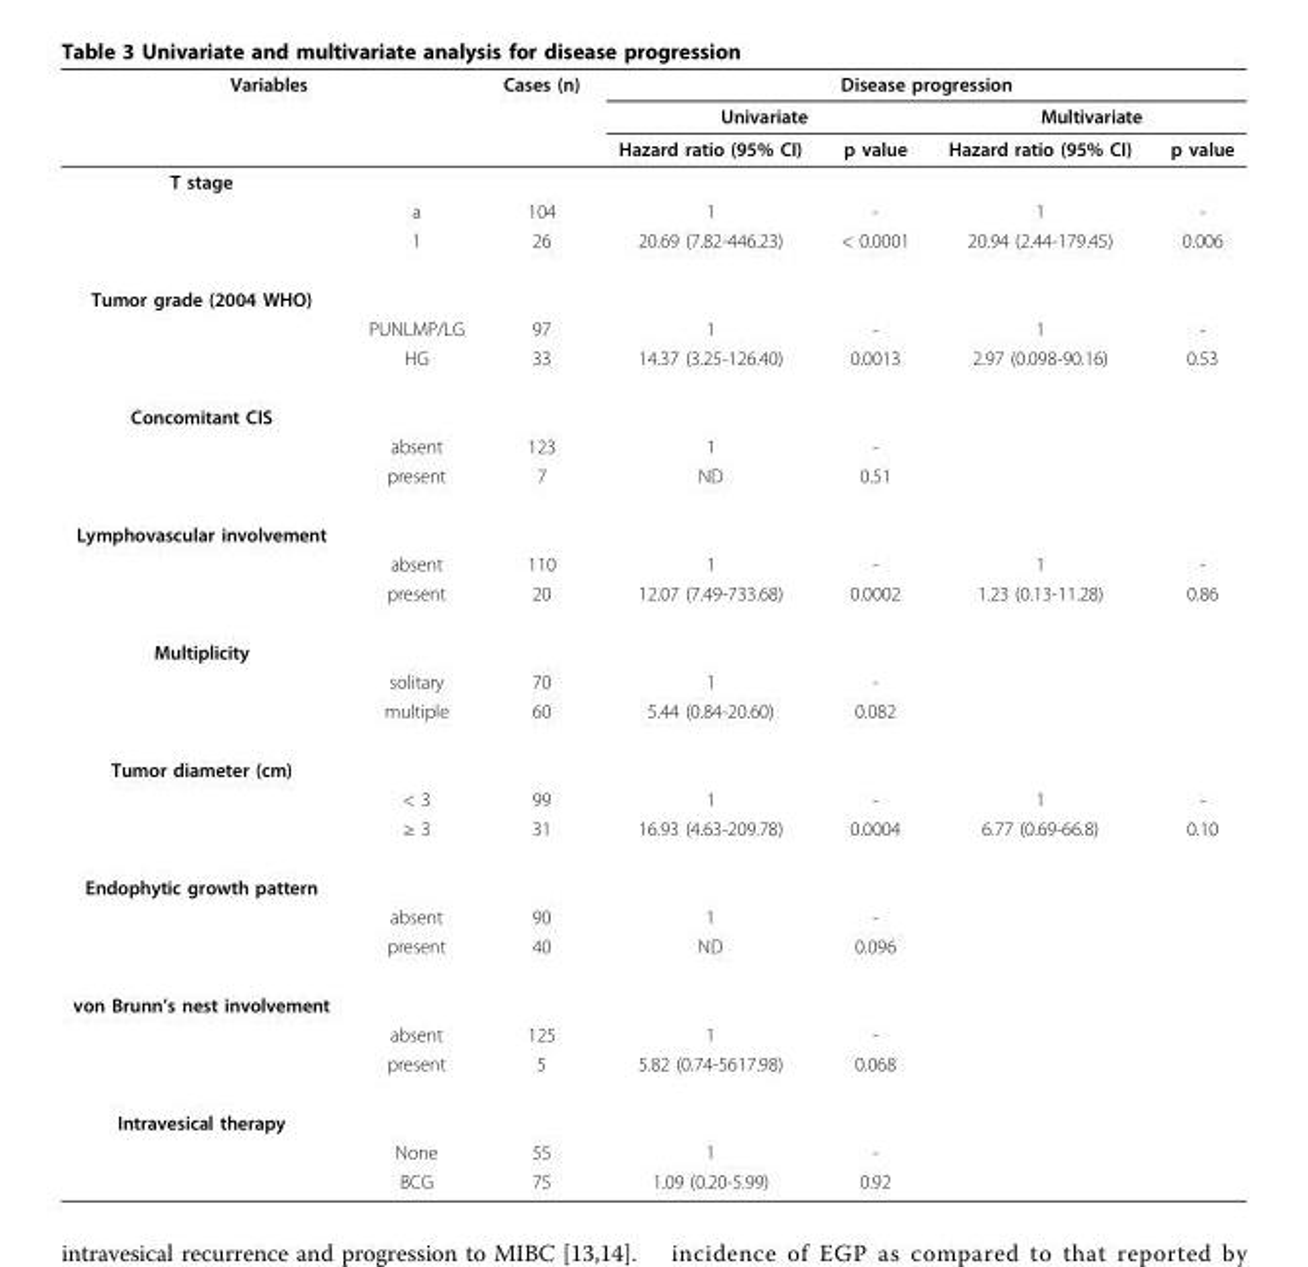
<table><thead><tr><td colspan="2">Variables</td><td rowspan="3">Cases (n)</td><td colspan="4">Disease progression</td></tr><tr><td rowspan="2"></td><td rowspan="2"></td><td colspan="2">Univariate</td><td colspan="2">Multivariate</td></tr><tr><td>Hazard ratio (95% CI)</td><td>p value</td><td>Hazard ratio (95% CI)</td><td>p value</td></tr></thead><tbody><tr><td colspan="7">T stage</td></tr><tr><td></td><td>a</td><td>104</td><td>1</td><td>-</td><td>1</td><td>-</td></tr><tr><td></td><td>1</td><td>26</td><td>20.69 (7.82-446.23)</td><td>&lt; 0.0001</td><td>20.94 (2.44-179.45)</td><td>0.006</td></tr><tr><td colspan="7">Tumor grade (2004 WHO)</td></tr><tr><td></td><td>PUNLMP/LG</td><td>97</td><td>1</td><td>-</td><td>1</td><td>-</td></tr><tr><td></td><td>HG</td><td>33</td><td>14.37 (3.25-126.40)</td><td>0.0013</td><td>2.97 (0.098-90.16)</td><td>0.53</td></tr><tr><td colspan="7">Concomitant CIS</td></tr><tr><td></td><td>absent</td><td>123</td><td>1</td><td>-</td><td></td><td></td></tr><tr><td></td><td>present</td><td>7</td><td>ND</td><td>0.51</td><td></td><td></td></tr><tr><td colspan="7">Lymphovascular involvement</td></tr><tr><td></td><td>absent</td><td>110</td><td>1</td><td>-</td><td>1</td><td>-</td></tr><tr><td></td><td>present</td><td>20</td><td>12.07 (7.49-733.68)</td><td>0.0002</td><td>1.23 (0.13-11.28)</td><td>0.86</td></tr><tr><td colspan="7">Multiplicity</td></tr><tr><td></td><td>solitary</td><td>70</td><td>1</td><td>-</td><td></td><td></td></tr><tr><td></td><td>multiple</td><td>60</td><td>5.44 (0.84-20.60)</td><td>0.082</td><td></td><td></td></tr><tr><td colspan="7">Tumor diameter (cm)</td></tr><tr><td></td><td>&lt; 3</td><td>99</td><td>1</td><td>-</td><td>1</td><td>-</td></tr><tr><td></td><td>≥ 3</td><td>31</td><td>16.93 (4.63-209.78)</td><td>0.0004</td><td>6.77 (0.69-66.8)</td><td>0.10</td></tr><tr><td colspan="7">Endophytic growth pattern</td></tr><tr><td></td><td>absent</td><td>90</td><td>1</td><td>-</td><td></td><td></td></tr><tr><td></td><td>present</td><td>40</td><td>ND</td><td>0.096</td><td></td><td></td></tr><tr><td colspan="7">von Brunn’s nest involvement</td></tr><tr><td></td><td>absent</td><td>125</td><td>1</td><td>-</td><td></td><td></td></tr><tr><td></td><td>present</td><td>5</td><td>5.82 (0.74-5617.98)</td><td>0.068</td><td></td><td></td></tr><tr><td colspan="7">Intravesical therapy</td></tr><tr><td></td><td>None</td><td>55</td><td>1</td><td>-</td><td></td><td></td></tr><tr><td></td><td>BCG</td><td>75</td><td>1.09 (0.20-5.99)</td><td>0.92</td><td></td><td></td></tr></tbody></table>